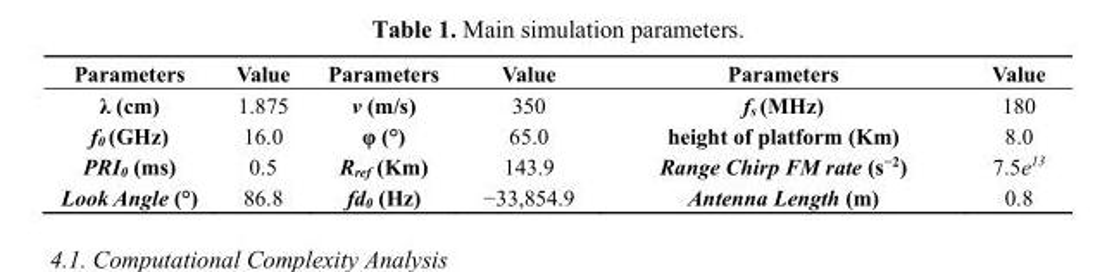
<table><thead><tr><td>Parameters</td><td>Value</td><td>Parameters</td><td>Value</td><td>Parameters</td><td>Value</td></tr></thead><tbody><tr><td>λ (cm)</td><td>1.875</td><td>v (m/s)</td><td>350</td><td>f<sub>s</sub> (MHz)</td><td>180</td></tr><tr><td>f<sub>0</sub> (GHz)</td><td>16.0</td><td>φ (°)</td><td>65.0</td><td>height of platform (Km)</td><td>8.0</td></tr><tr><td>PRI<sub>0</sub> (ms)</td><td>0.5</td><td>R<sub>ref</sub> (Km)</td><td>143.9</td><td>Range Chirp FM rate (s<sup>−2</sup>)</td><td>7.5e<sup>13</sup></td></tr><tr><td>Look Angle (°)</td><td>86.8</td><td>fd<sub>0</sub> (Hz)</td><td>−33,854.9</td><td>Antenna Length (m)</td><td>0.8</td></tr></tbody></table>